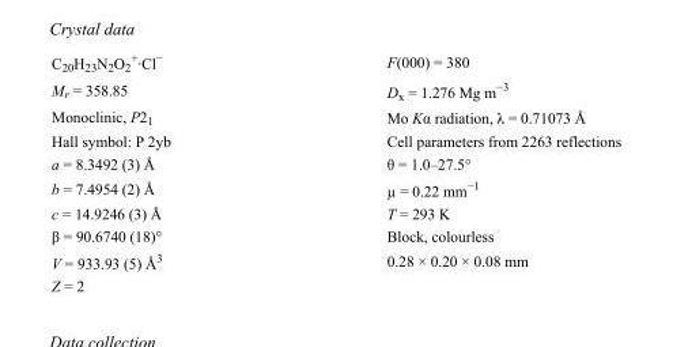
<table><tbody><tr><td>C<sub>20</sub>H<sub>23</sub>N<sub>2</sub>O<sub>2</sub> <sup>+</sup>·Cl<sup>−</sup></td><td>F(000) = 380</td></tr><tr><td>M<sub>r</sub> = 358.85</td><td>D<sub>x</sub> = 1.276 Mg m<sup>−3</sup></td></tr><tr><td>Monoclinic, P2<sub>1</sub></td><td>Mo Kα radiation, λ = 0.71073 Å</td></tr><tr><td>Hall symbol: P 2yb</td><td>Cell parameters from 2263 reflections</td></tr><tr><td>a = 8.3492 (3) Å</td><td>θ = 1.0–27.5°</td></tr><tr><td>b = 7.4954 (2) Å</td><td>µ = 0.22 mm<sup>−1</sup></td></tr><tr><td>c = 14.9246 (3) Å</td><td>T = 293 K</td></tr><tr><td>β = 90.6740 (18)°</td><td>Block, colourless</td></tr><tr><td>V = 933.93 (5) Å<sup>3</sup></td><td>0.28 × 0.20 × 0.08 mm</td></tr><tr><td>Z = 2</td><td></td></tr></tbody></table>